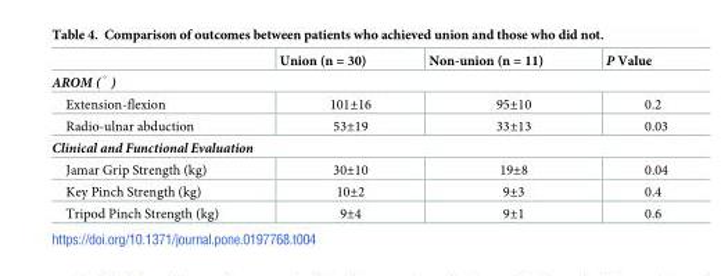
<table><thead><tr><td></td><td>Union (n = 30)</td><td>Non-union (n = 11)</td><td>P Value</td></tr></thead><tbody><tr><td colspan="4">AROM (<sup>◦</sup> )</td></tr><tr><td>Extension-flexion</td><td>101±16</td><td>95±10</td><td>0.2</td></tr><tr><td>Radio-ulnar abduction</td><td>53±19</td><td>33±13</td><td>0.03</td></tr><tr><td colspan="4">Clinical and Functional Evaluation</td></tr><tr><td>Jamar Grip Strength (kg)</td><td>30±10</td><td>19±8</td><td>0.04</td></tr><tr><td>Key Pinch Strength (kg)</td><td>10±2</td><td>9±3</td><td>0.4</td></tr><tr><td>Tripod Pinch Strength (kg)</td><td>9±4</td><td>9±1</td><td>0.6</td></tr></tbody></table>